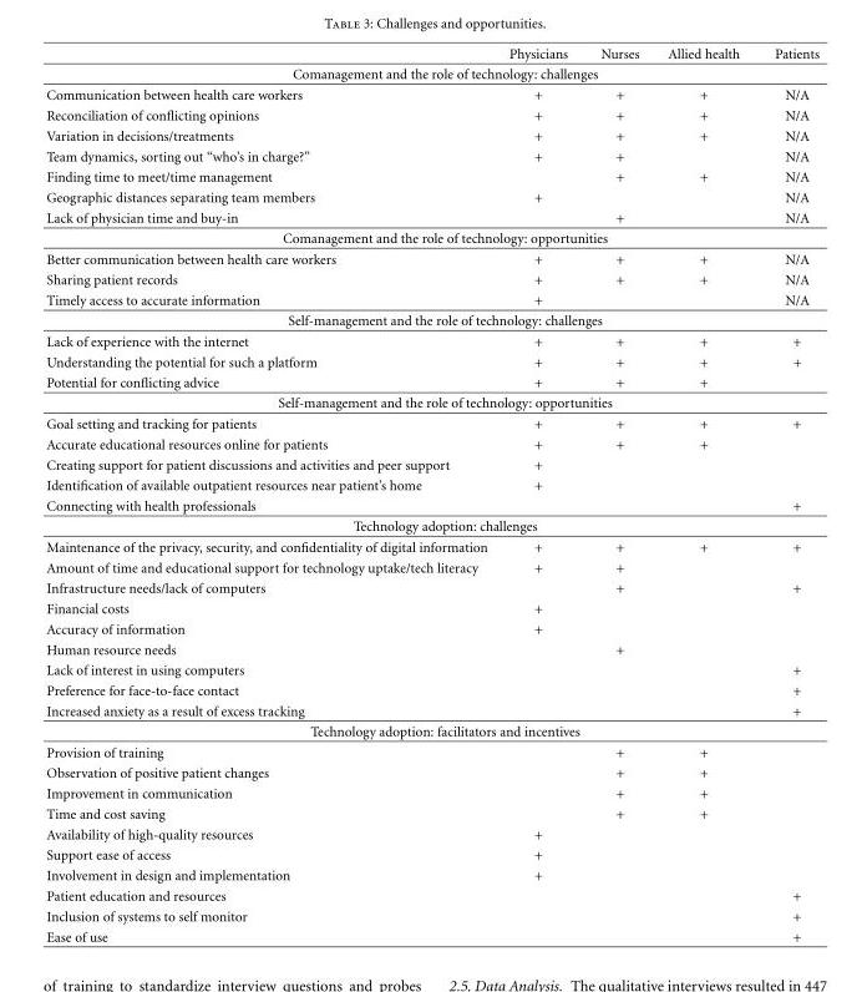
<table><thead><tr><td></td><td>Physicians</td><td>Nurses</td><td>Allied health</td><td>Patients</td></tr></thead><tbody><tr><td colspan="5">Comanagement and the role of technology: challenges</td></tr><tr><td>Communication between health care workers</td><td>+</td><td>+</td><td>+</td><td>N/A</td></tr><tr><td>Reconciliation of conflicting opinions</td><td>+</td><td>+</td><td>+</td><td>N/A</td></tr><tr><td>Variation in decisions/treatments</td><td>+</td><td>+</td><td>+</td><td>N/A</td></tr><tr><td>Team dynamics, sorting out “who’s in charge?”</td><td>+</td><td>+</td><td></td><td>N/A</td></tr><tr><td>Finding time to meet/time management</td><td></td><td>+</td><td>+</td><td>N/A</td></tr><tr><td>Geographic distances separating team members</td><td>+</td><td></td><td></td><td>N/A</td></tr><tr><td>Lack of physician time and buy-in</td><td></td><td>+</td><td></td><td>N/A</td></tr><tr><td colspan="5">Comanagement and the role of technology: opportunities</td></tr><tr><td>Better communication between health care workers</td><td>+</td><td>+</td><td>+</td><td>N/A</td></tr><tr><td>Sharing patient records</td><td>+</td><td>+</td><td>+</td><td>N/A</td></tr><tr><td>Timely access to accurate information</td><td>+</td><td></td><td></td><td>N/A</td></tr><tr><td colspan="5">Self-management and the role of technology: challenges</td></tr><tr><td>Lack of experience with the internet</td><td>+</td><td>+</td><td>+</td><td>+</td></tr><tr><td>Understanding the potential for such a platform</td><td>+</td><td>+</td><td>+</td><td>+</td></tr><tr><td>Potential for conflicting advice</td><td>+</td><td>+</td><td>+</td><td></td></tr><tr><td colspan="5">Self-management and the role of technology: opportunities</td></tr><tr><td>Goal setting and tracking for patients</td><td>+</td><td>+</td><td>+</td><td>+</td></tr><tr><td>Accurate educational resources online for patients</td><td>+</td><td>+</td><td>+</td><td></td></tr><tr><td>Creating support for patient discussions and activities and peer support</td><td>+</td><td></td><td></td><td></td></tr><tr><td>Identification of available outpatient resources near patient’s home</td><td>+</td><td></td><td></td><td></td></tr><tr><td>Connecting with health professionals</td><td></td><td></td><td></td><td>+</td></tr><tr><td colspan="5">Technology adoption: challenges</td></tr><tr><td>Maintenance of the privacy, security, and confidentiality of digital information</td><td>+</td><td>+</td><td>+</td><td>+</td></tr><tr><td>Amount of time and educational support for technology uptake/tech literacy</td><td>+</td><td>+</td><td></td><td></td></tr><tr><td>Infrastructure needs/lack of computers</td><td></td><td>+</td><td></td><td>+</td></tr><tr><td>Financial costs</td><td>+</td><td></td><td></td><td></td></tr><tr><td>Accuracy of information</td><td>+</td><td></td><td></td><td></td></tr><tr><td>Human resource needs</td><td></td><td>+</td><td></td><td></td></tr><tr><td>Lack of interest in using computers</td><td></td><td></td><td></td><td>+</td></tr><tr><td>Preference for face-to-face contact</td><td></td><td></td><td></td><td>+</td></tr><tr><td>Increased anxiety as a result of excess tracking</td><td></td><td></td><td></td><td>+</td></tr><tr><td colspan="5">Technology adoption: facilitators and incentives</td></tr><tr><td>Provision of training</td><td></td><td>+</td><td>+</td><td></td></tr><tr><td>Observation of positive patient changes</td><td></td><td>+</td><td>+</td><td></td></tr><tr><td>Improvement in communication</td><td></td><td>+</td><td>+</td><td></td></tr><tr><td>Time and cost saving</td><td></td><td>+</td><td>+</td><td></td></tr><tr><td>Availability of high-quality resources</td><td>+</td><td></td><td></td><td></td></tr><tr><td>Support ease of access</td><td>+</td><td></td><td></td><td></td></tr><tr><td>Involvement in design and implementation</td><td>+</td><td></td><td></td><td></td></tr><tr><td>Patient education and resources</td><td></td><td></td><td></td><td>+</td></tr><tr><td>Inclusion of systems to self monitor</td><td></td><td></td><td></td><td>+</td></tr><tr><td>Ease of use</td><td></td><td></td><td></td><td>+</td></tr></tbody></table>